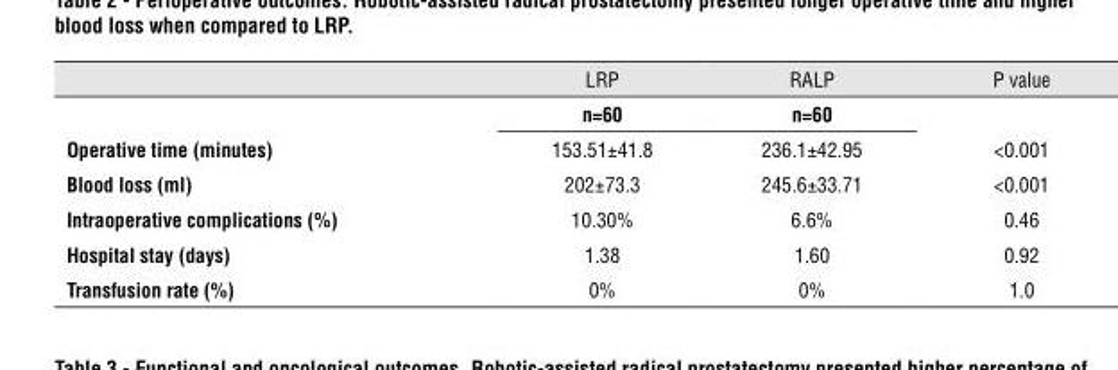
<table><thead><tr><td></td><td>LRP</td><td>RALP</td><td>P value</td></tr></thead><tbody><tr><td></td><td>n=60</td><td>n=60</td><td></td></tr><tr><td>Operative time (minutes)</td><td>153.51±41.8</td><td>236.1±42.95</td><td>&lt;0.001</td></tr><tr><td>blood loss (ml)</td><td>202±73.3</td><td>245.6±33.71</td><td>&lt;0.001</td></tr><tr><td>Intraoperative complications (%)</td><td>10.30%</td><td>6.6%</td><td>0.46</td></tr><tr><td>Hospital stay (days)</td><td>1.38</td><td>1.60</td><td>0.92</td></tr><tr><td>Transfusion rate (%)</td><td>0%</td><td>0%</td><td>1.0</td></tr></tbody></table>